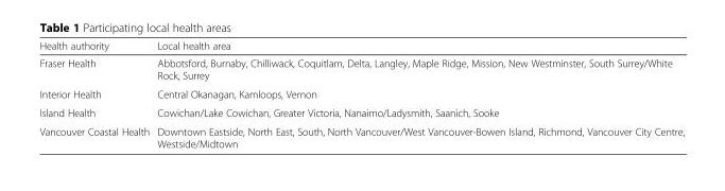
<table><thead><tr><td>Health authority</td><td>Local health area</td></tr></thead><tbody><tr><td>Fraser Health</td><td>Abbotsford, Burnaby, Chilliwack, Coquitlam, Delta, Langley, Maple Ridge, Mission, New Westminster, South Surrey/White Rock, Surrey</td></tr><tr><td>Interior Health</td><td>Central Okanagan, Kamloops, Vernon</td></tr><tr><td>Island Health</td><td>Cowichan/Lake Cowichan, Greater Victoria, Nanaimo/Ladysmith, Saanich, Sooke</td></tr><tr><td>Vancouver Coastal Health</td><td>Downtown Eastside, North East, South, North Vancouver/West Vancouver-Bowen Island, Richmond, Vancouver City Centre, Westside/Midtown</td></tr></tbody></table>